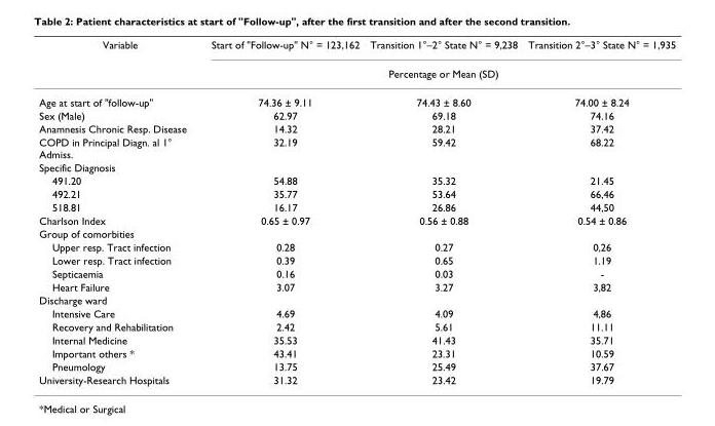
<table><thead><tr><td rowspan="2">Variable</td><td>Start of &quot;Follow-up&quot; N° = 123,162</td><td>Transition 1°–2° State N° = 9,238</td><td>Transition 2°–3° State N° = 1,935</td></tr><tr><td colspan="3">Percentage or Mean (SD)</td></tr></thead><tbody><tr><td>Age at start of &quot;follow-up&quot;</td><td>74.36 ± 9.11</td><td>74.43 ± 8.60</td><td>74.00 ± 8.24</td></tr><tr><td>Sex (Male)</td><td>62.97</td><td>69.18</td><td>74.16</td></tr><tr><td>Anamnesis Chronic Resp. Disease</td><td>14.32</td><td>28.21</td><td>37.42</td></tr><tr><td>COPD in Principal Diagn. al 1° Admiss.</td><td>32.19</td><td>59.42</td><td>68.22</td></tr><tr><td colspan="4">Specific Diagnosis</td></tr><tr><td>491.20</td><td>54.88</td><td>35.32</td><td>21.45</td></tr><tr><td>492.21</td><td>35.77</td><td>53.64</td><td>66,46</td></tr><tr><td>518.81</td><td>16.17</td><td>26.86</td><td>44,50</td></tr><tr><td>Charlson Index</td><td>0.65 ± 0.97</td><td>0.56 ± 0.88</td><td>0.54 ± 0.86</td></tr><tr><td colspan="4">Group of comorbities</td></tr><tr><td>Upper resp. Tract infection</td><td>0.28</td><td>0.27</td><td>0,26</td></tr><tr><td>Lower resp. Tract infection</td><td>0.39</td><td>0.65</td><td>1.19</td></tr><tr><td>Septicaemia</td><td>0.16</td><td>0.03</td><td>-</td></tr><tr><td>Heart Failure</td><td>3.07</td><td>3.27</td><td>3,82</td></tr><tr><td colspan="4">Discharge ward</td></tr><tr><td>Intensive Care</td><td>4.69</td><td>4.09</td><td>4,86</td></tr><tr><td>Recovery and Rehabilitation</td><td>2.42</td><td>5.61</td><td>11.11</td></tr><tr><td>Internal Medicine</td><td>35.53</td><td>41.43</td><td>35.71</td></tr><tr><td>Important others *</td><td>43.41</td><td>23.31</td><td>10.59</td></tr><tr><td>Pneumology</td><td>13.75</td><td>25.49</td><td>37.67</td></tr><tr><td>University-Research Hospitals</td><td>31.32</td><td>23.42</td><td>19.79</td></tr></tbody></table>